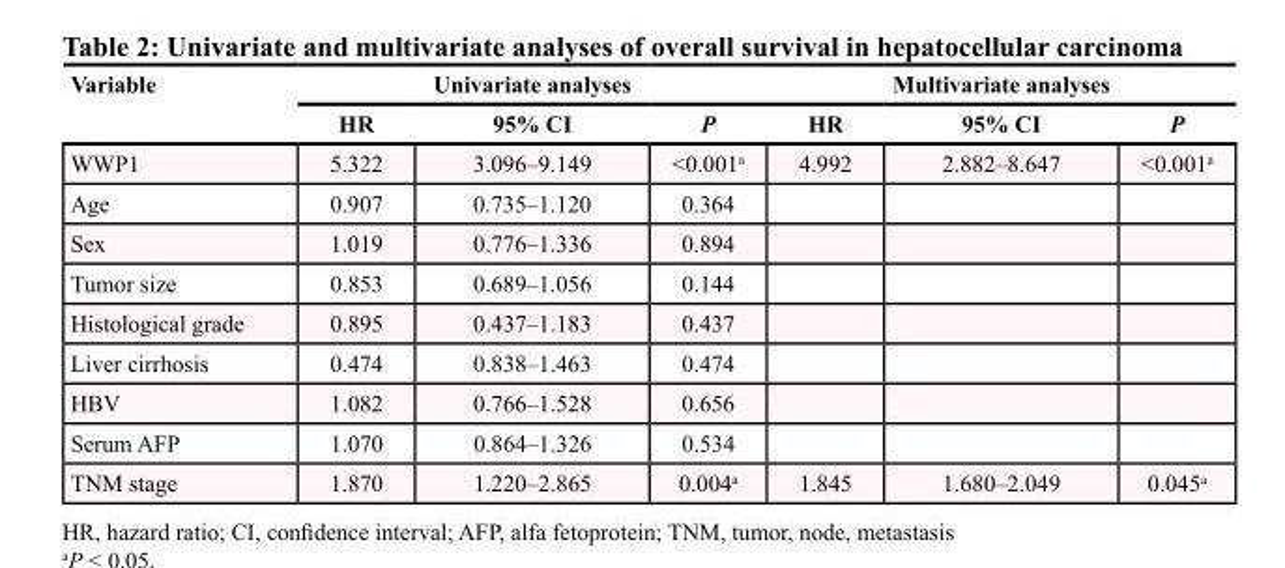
<table><thead><tr><td rowspan="2">Variable</td><td colspan="3">Univariate analyses</td><td colspan="3">Multivariate analyses</td></tr><tr><td>HR</td><td>95% CI</td><td>P</td><td>HR</td><td>95% CI</td><td>P</td></tr></thead><tbody><tr><td>WWP1</td><td>5.322</td><td>3.096–9.149</td><td>&lt;0.001<sup>a</sup></td><td>4.992</td><td>2.882–8.647</td><td>&lt;0.001<sup>a</sup></td></tr><tr><td>Age</td><td>0.907</td><td>0.735–1.120</td><td>0.364</td><td></td><td></td><td></td></tr><tr><td>Sex</td><td>1.019</td><td>0.776–1.336</td><td>0.894</td><td></td><td></td><td></td></tr><tr><td>Tumor size</td><td>0.853</td><td>0.689–1.056</td><td>0.144</td><td></td><td></td><td></td></tr><tr><td>Histological grade</td><td>0.895</td><td>0.437–1.183</td><td>0.437</td><td></td><td></td><td></td></tr><tr><td>Liver cirrhosis</td><td>0.474</td><td>0.838–1.463</td><td>0.474</td><td></td><td></td><td></td></tr><tr><td>HBV</td><td>1.082</td><td>0.766–1.528</td><td>0.656</td><td></td><td></td><td></td></tr><tr><td>Serum AFP</td><td>1.070</td><td>0.864–1.326</td><td>0.534</td><td></td><td></td><td></td></tr><tr><td>TNM stage</td><td>1.870</td><td>1.220–2.865</td><td>0.004<sup>a</sup></td><td>1.845</td><td>1.680–2.049</td><td>0.045<sup>a</sup></td></tr></tbody></table>